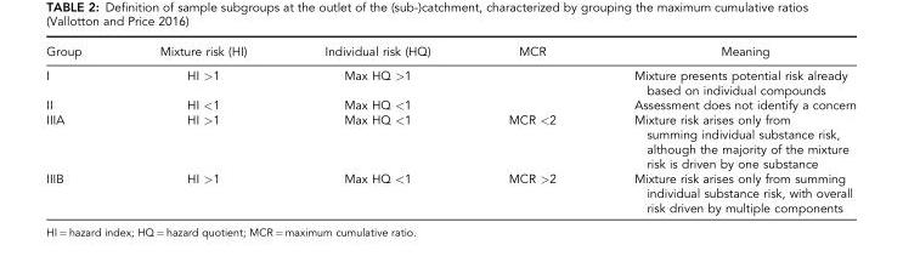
<table><thead><tr><td>Group</td><td>Mixture risk (HI)</td><td>Individual risk (HQ)</td><td>MCR</td><td>Meaning</td></tr></thead><tbody><tr><td>I</td><td>HI &gt;1</td><td>Max HQ &gt;1</td><td></td><td>Mixture presents potential risk already based on individual compounds</td></tr><tr><td>II</td><td>HI &lt;1</td><td>Max HQ &lt;1</td><td></td><td>Assessment does not identify a concern</td></tr><tr><td>IIIA</td><td>HI &gt;1</td><td>Max HQ &lt;1</td><td>MCR &lt;2</td><td>Mixture risk arises only from summing individual substance risk, although the majority of the mixture risk is driven by one substance</td></tr><tr><td>IIIB</td><td>HI &gt;1</td><td>Max HQ &lt;1</td><td>MCR &gt;2</td><td>Mixture risk arises only from summing individual substance risk, with overall risk driven by multiple components</td></tr></tbody></table>